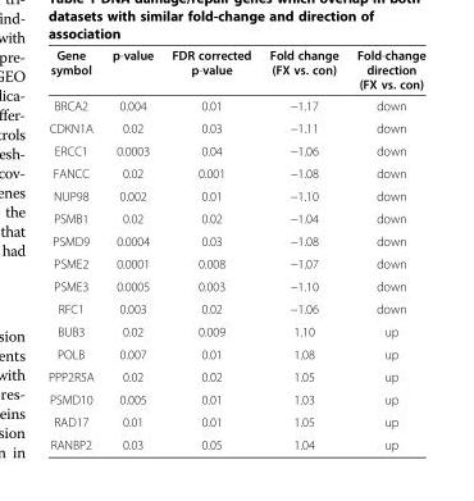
<table><thead><tr><td>Gene symbol</td><td>p-value</td><td>FDR corrected p-value</td><td>Fold change (FX vs. con)</td><td>Fold-change direction (FX vs. con)</td></tr></thead><tbody><tr><td>BRCA2</td><td>0.004</td><td>0.01</td><td>−1.17</td><td>down</td></tr><tr><td>CDKN1A</td><td>0.02</td><td>0.03</td><td>−1.11</td><td>down</td></tr><tr><td>ERCC1</td><td>0.0003</td><td>0.04</td><td>−1.06</td><td>down</td></tr><tr><td>FANCC</td><td>0.02</td><td>0.001</td><td>−1.08</td><td>down</td></tr><tr><td>NUP98</td><td>0.002</td><td>0.01</td><td>−1.10</td><td>down</td></tr><tr><td>PSMB1</td><td>0.02</td><td>0.02</td><td>−1.04</td><td>down</td></tr><tr><td>PSMD9</td><td>0.0004</td><td>0.03</td><td>−1.08</td><td>down</td></tr><tr><td>PSME2</td><td>0.0001</td><td>0.008</td><td>−1.07</td><td>down</td></tr><tr><td>PSME3</td><td>0.0005</td><td>0.003</td><td>−1.10</td><td>down</td></tr><tr><td>RFC1</td><td>0.003</td><td>0.02</td><td>−1.06</td><td>down</td></tr><tr><td>BUB3</td><td>0.02</td><td>0.009</td><td>1.10</td><td>up</td></tr><tr><td>POLB</td><td>0.007</td><td>0.01</td><td>1.08</td><td>up</td></tr><tr><td>PPP2R5A</td><td>0.02</td><td>0.02</td><td>1.05</td><td>up</td></tr><tr><td>PSMD10</td><td>0.005</td><td>0.01</td><td>1.03</td><td>up</td></tr><tr><td>RAD17</td><td>0.01</td><td>0.01</td><td>1.05</td><td>up</td></tr><tr><td>RANBP2</td><td>0.03</td><td>0.05</td><td>1.04</td><td>up</td></tr></tbody></table>